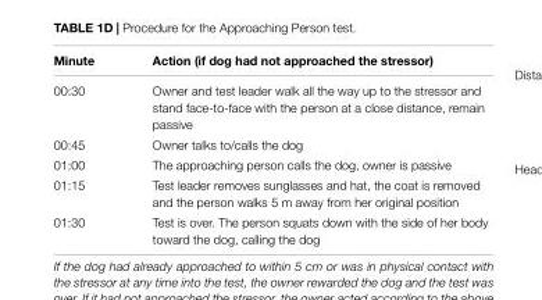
<table><thead><tr><td>Minute</td><td>Action (if dog had not approached the stressor)</td></tr></thead><tbody><tr><td>00:30</td><td>Owner and test leader walk all the way up to the stressor and stand face-to-face with the person at a close distance, remain passive</td></tr><tr><td>00:45</td><td>Owner talks to/calls the dog</td></tr><tr><td>01:00</td><td>The approaching person calls the dog, owner is passive</td></tr><tr><td>01:15</td><td>Test leader removes sunglasses and hat, the coat is removed and the person walks 5 m away from her original position</td></tr><tr><td>01:30</td><td>Test is over. The person squats down with the side of her body toward the dog, calling the dog</td></tr></tbody></table>